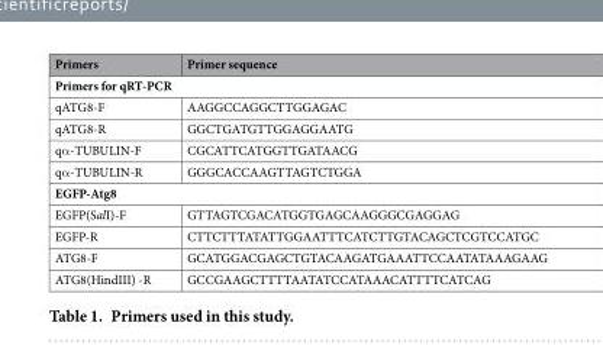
<table><thead><tr><td>Primers</td><td>Primer sequence</td></tr></thead><tbody><tr><td colspan="2">Primers for qRT-PCR</td></tr><tr><td>qATG8-F</td><td>AAGGCCAGGCTTGGAGAC</td></tr><tr><td>qATG8-R</td><td>GGCTGATGTTGGAGGAATG</td></tr><tr><td>qα -TUBULIN-F</td><td>CGCATTCATGGTTGATAACG</td></tr><tr><td>qα -TUBULIN-R</td><td>GGGCACCAAGTTAGTCTGGA</td></tr><tr><td colspan="2">EGFP-Atg8</td></tr><tr><td>EGFP(SalI)-F</td><td>GTTAGTCGACATGGTGAGCAAGGGCGAGGAG</td></tr><tr><td>EGFP-R</td><td>CTTCTTTATATTGGAATTTCATCTTGTACAGCTCGTCCATGC</td></tr><tr><td>ATG8-F</td><td>GCATGGACGAGCTGTACAAGATGAAATTCCAATATAAAGAAG</td></tr><tr><td>ATG8(HindIII) -R</td><td>GCCGAAGCTTTTAATATCCATAAACATTTTCATCAG</td></tr></tbody></table>